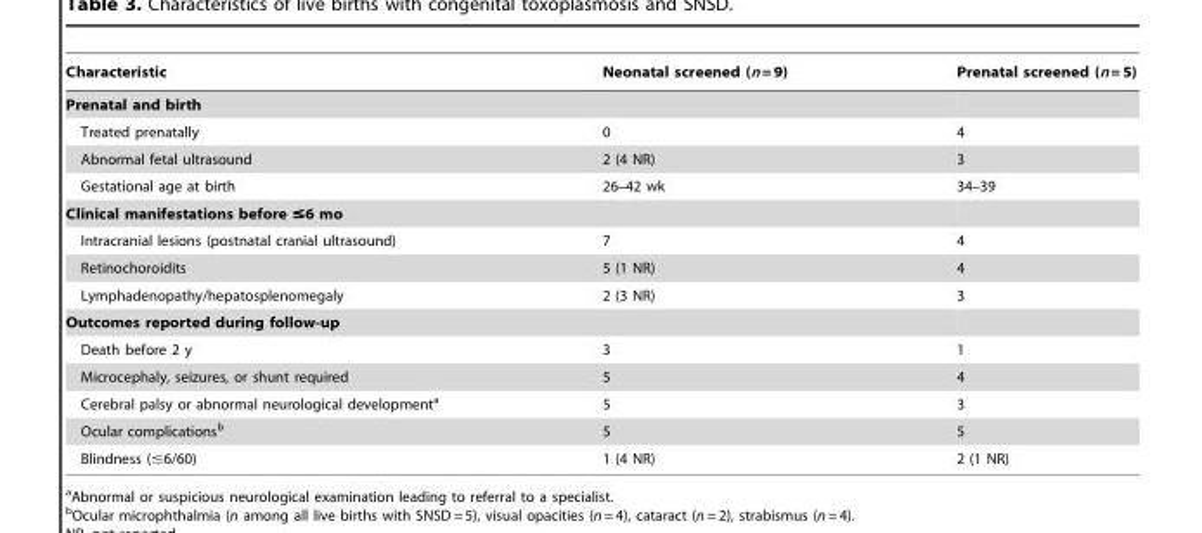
<table><thead><tr><td>Characteristic</td><td>Neonatal screened (n = 9)</td><td>Prenatal screened (n = 5)</td></tr></thead><tbody><tr><td colspan="3">Prenatal and birth</td></tr><tr><td>Treated prenatally</td><td>0</td><td>4</td></tr><tr><td>Abnormal fetal ultrasound</td><td>2 (4 NR)</td><td>3</td></tr><tr><td>Gestational age at birth</td><td>26–42 wk</td><td>34–39</td></tr><tr><td colspan="3">Clinical manifestations before ≤6 mo</td></tr><tr><td>Intracranial lesions (postnatal cranial ultrasound)</td><td>7</td><td>4</td></tr><tr><td>Retinochoroidits</td><td>5 (1 NR)</td><td>4</td></tr><tr><td>Lymphadenopathy/hepatosplenomegaly</td><td>2 (3 NR)</td><td>3</td></tr><tr><td colspan="3">Outcomes reported during follow-up</td></tr><tr><td>Death before 2 y</td><td>3</td><td>1</td></tr><tr><td>Microcephaly, seizures, or shunt required</td><td>5</td><td>4</td></tr><tr><td>Cerebral palsy or abnormal neurological development<sup>a</sup></td><td>5</td><td>3</td></tr><tr><td>Ocular complications<sup>b</sup></td><td>5</td><td>5</td></tr><tr><td>Blindness (≤6/60)</td><td>1 (4 NR)</td><td>2 (1 NR)</td></tr></tbody></table>